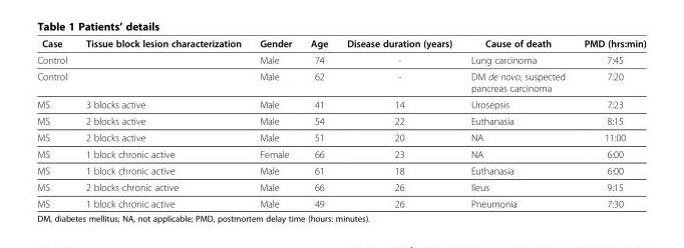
<table><thead><tr><td>Case</td><td>Tissue block lesion characterization</td><td>Gender</td><td>Age</td><td>Disease duration (years)</td><td>Cause of death</td><td>PMD (hrs:min)</td></tr></thead><tbody><tr><td>Control</td><td></td><td>Male</td><td>74</td><td>-</td><td>Lung carcinoma</td><td>7:45</td></tr><tr><td>Control</td><td></td><td>Male</td><td>62</td><td>-</td><td>DM de novo, suspected pancreas carcinoma</td><td>7:20</td></tr><tr><td>MS</td><td>3 blocks active</td><td>Male</td><td>41</td><td>14</td><td>Urosepsis</td><td>7:23</td></tr><tr><td>MS</td><td>2 blocks active</td><td>Male</td><td>54</td><td>22</td><td>Euthanasia</td><td>8:15</td></tr><tr><td>MS</td><td>2 blocks active</td><td>Male</td><td>51</td><td>20</td><td>NA</td><td>11:00</td></tr><tr><td>MS</td><td>1 block chronic active</td><td>Female</td><td>66</td><td>23</td><td>NA</td><td>6:00</td></tr><tr><td>MS</td><td>1 block chronic active</td><td>Male</td><td>61</td><td>18</td><td>Euthanasia</td><td>6:00</td></tr><tr><td>MS</td><td>2 blocks chronic active</td><td>Male</td><td>66</td><td>26</td><td>Ileus</td><td>9:15</td></tr><tr><td>MS</td><td>1 block chronic active</td><td>Male</td><td>49</td><td>26</td><td>Pneumonia</td><td>7:30</td></tr></tbody></table>